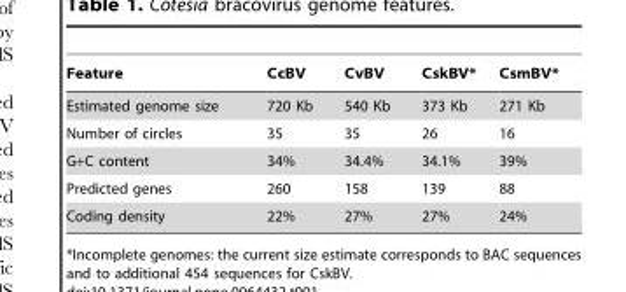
<table><thead><tr><td>Feature</td><td>CcBV</td><td>CvBV</td><td>CskBV*</td><td>CsmBV*</td></tr></thead><tbody><tr><td>Estimated genome size</td><td>720 Kb</td><td>540 Kb</td><td>373 Kb</td><td>271 Kb</td></tr><tr><td>Number of circles</td><td>35</td><td>35</td><td>26</td><td>16</td></tr><tr><td>G+C content</td><td>34%</td><td>34.4%</td><td>34.1%</td><td>39%</td></tr><tr><td>Predicted genes</td><td>260</td><td>158</td><td>139</td><td>88</td></tr><tr><td>Coding density</td><td>22%</td><td>27%</td><td>27%</td><td>24%</td></tr></tbody></table>